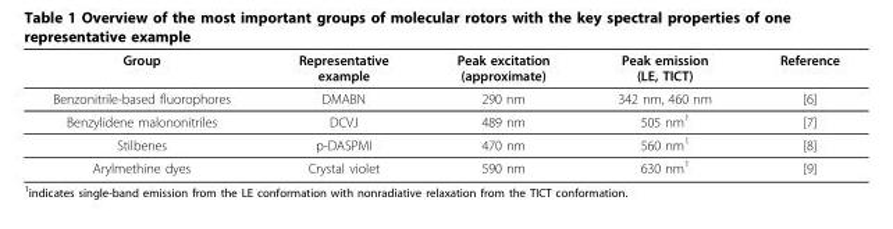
<table><thead><tr><td>Group</td><td>Representative example</td><td>Peak excitation (approximate)</td><td>Peak emission (LE, TICT)</td><td>Reference</td></tr></thead><tbody><tr><td>Benzonitrile-based fluorophores</td><td>DMABN</td><td>290 nm</td><td>342 nm, 460 nm</td><td>[6]</td></tr><tr><td>Benzylidene malononitriles</td><td>DCVJ</td><td>489 nm</td><td>505 nm<sup>1</sup></td><td>[7]</td></tr><tr><td>Stilbenes</td><td>p-DASPMI</td><td>470 nm</td><td>560 nm<sup>1</sup></td><td>[8]</td></tr><tr><td>Arylmethine dyes</td><td>Crystal violet</td><td>590 nm</td><td>630 nm<sup>1</sup></td><td>[9]</td></tr></tbody></table>